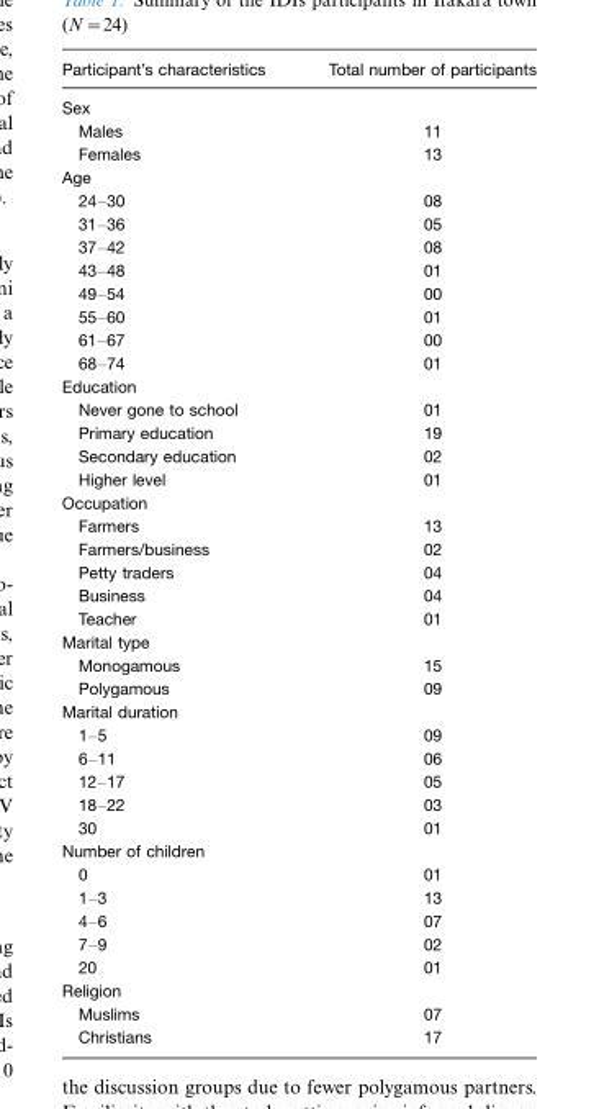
<table><thead><tr><td>Participant’s characteristics</td><td>Total number of participants</td></tr></thead><tbody><tr><td colspan="2">Sex</td></tr><tr><td>Males</td><td>11</td></tr><tr><td>Females</td><td>13</td></tr><tr><td colspan="2">Age</td></tr><tr><td>24–30</td><td>08</td></tr><tr><td>31–36</td><td>05</td></tr><tr><td>37–42</td><td>08</td></tr><tr><td>43–48</td><td>01</td></tr><tr><td>49–54</td><td>00</td></tr><tr><td>55–60</td><td>01</td></tr><tr><td>61–67</td><td>00</td></tr><tr><td>68–74</td><td>01</td></tr><tr><td colspan="2">Education</td></tr><tr><td>Never gone to school</td><td>01</td></tr><tr><td>Primary education</td><td>19</td></tr><tr><td>Secondary education</td><td>02</td></tr><tr><td>Higher level</td><td>01</td></tr><tr><td colspan="2">Occupation</td></tr><tr><td>Farmers</td><td>13</td></tr><tr><td>Farmers/business</td><td>02</td></tr><tr><td>Petty traders</td><td>04</td></tr><tr><td>Business</td><td>04</td></tr><tr><td>Teacher</td><td>01</td></tr><tr><td colspan="2">Marital type</td></tr><tr><td>Monogamous</td><td>15</td></tr><tr><td>Polygamous</td><td>09</td></tr><tr><td colspan="2">Marital duration</td></tr><tr><td>1–5</td><td>09</td></tr><tr><td>6–11</td><td>06</td></tr><tr><td>12–17</td><td>05</td></tr><tr><td>18–22</td><td>03</td></tr><tr><td>30</td><td>01</td></tr><tr><td colspan="2">Number of children</td></tr><tr><td>0</td><td>01</td></tr><tr><td>1–3</td><td>13</td></tr><tr><td>4–6</td><td>07</td></tr><tr><td>7–9</td><td>02</td></tr><tr><td>20</td><td>01</td></tr><tr><td colspan="2">Religion</td></tr><tr><td>Muslims</td><td>07</td></tr><tr><td>Christians</td><td>17</td></tr></tbody></table>